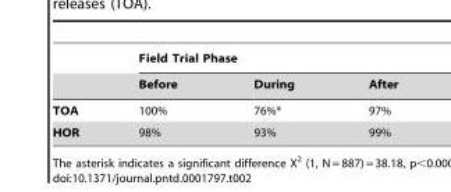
<table><thead><tr><td rowspan="2"></td><td colspan="3">Field Trial Phase</td></tr><tr><td>Before</td><td>During</td><td>After</td></tr></thead><tbody><tr><td>TOA</td><td>100%</td><td>76%*</td><td>97%</td></tr><tr><td>HOR</td><td>98%</td><td>93%</td><td>99%</td></tr></tbody></table>